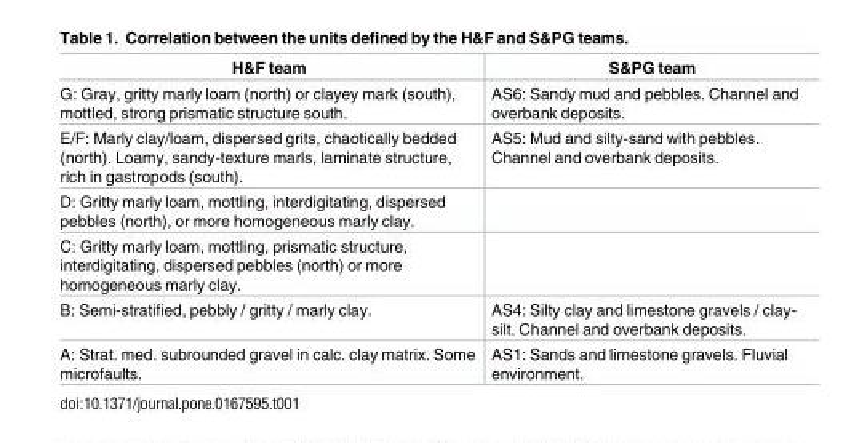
<table><thead><tr><td>H&amp;F team</td><td>S&amp;PG team</td></tr></thead><tbody><tr><td>G: Gray, gritty marly loam (north) or clayey mark (south), mottled, strong prismatic structure south.</td><td>AS6: Sandy mud and pebbles. Channel and overbank deposits.</td></tr><tr><td>E/F: Marly clay/loam, dispersed grits, chaotically bedded (north). Loamy, sandy-texture marls, laminate structure, rich in gastropods (south).</td><td>AS5: Mud and silty-sand with pebbles. Channel and overbank deposits.</td></tr><tr><td colspan="2">D: Gritty marly loam, mottling, interdigitating, dispersed pebbles (north), or more homogeneous marly clay.</td></tr><tr><td colspan="2">C: Gritty marly loam, mottling, prismatic structure, interdigitating, dispersed pebbles (north) or more homogeneous marly clay.</td></tr><tr><td>B: Semi-stratified, pebbly / gritty / marly clay.</td><td>AS4: Silty clay and limestone gravels / clay- silt. Channel and overbank deposits.</td></tr><tr><td>A: Strat. med. subrounded gravel in calc. clay matrix. Some microfaults.</td><td>AS1: Sands and limestone gravels. Fluvial environment.</td></tr></tbody></table>